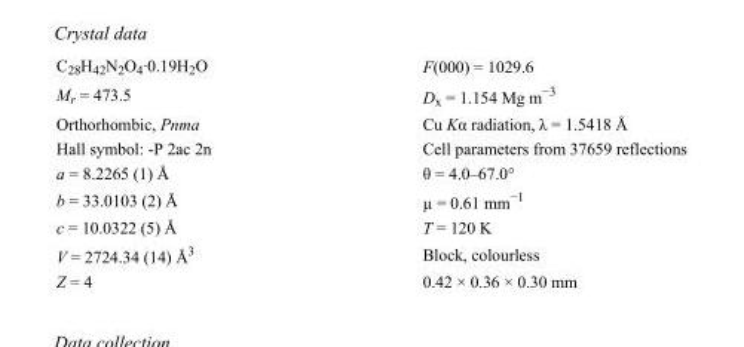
<table><tbody><tr><td>C<sub>28</sub>H<sub>42</sub>N<sub>2</sub>O<sub>4</sub>·0.19H<sub>2</sub>O</td><td>F(000) = 1029.6</td></tr><tr><td>M<sub>r</sub> = 473.5</td><td>D<sub>x</sub> = 1.154 Mg m<sup>−3</sup></td></tr><tr><td>Orthorhombic, Pnma</td><td>Cu Kα radiation, λ = 1.5418 Å</td></tr><tr><td>Hall symbol: -P 2ac 2n</td><td>Cell parameters from 37659 reflections</td></tr><tr><td>a = 8.2265 (1) Å</td><td>θ = 4.0–67.0°</td></tr><tr><td>b = 33.0103 (2) Å</td><td>µ = 0.61 mm<sup>−1</sup></td></tr><tr><td>c = 10.0322 (5) Å</td><td>T = 120 K</td></tr><tr><td>V = 2724.34 (14) Å<sup>3</sup></td><td>Block, colourless</td></tr><tr><td>Z = 4</td><td>0.42 × 0.36 × 0.30 mm</td></tr></tbody></table>